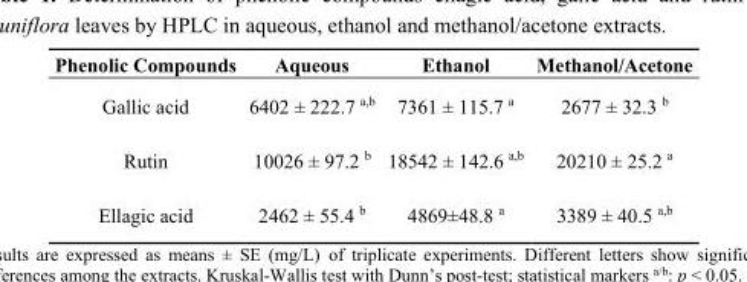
<table><thead><tr><td>Phenolic Compounds</td><td>Aqueous</td><td>Ethanol</td><td>Methanol/Acetone</td></tr></thead><tbody><tr><td>Gallic acid</td><td>6402 ± 222.7 <sup>a,b</sup></td><td>7361 ± 115.7 <sup>a</sup></td><td>2677 ± 32.3 <sup>b</sup></td></tr><tr><td>Rutin</td><td>10026 ± 97.2 <sup>b</sup></td><td>18542 ± 142.6 <sup>a,b</sup></td><td>20210 ± 25.2 <sup>a</sup></td></tr><tr><td>Ellagic acid</td><td>2462 ± 55.4 <sup>b</sup></td><td>4869±48.8 <sup>a</sup></td><td>3389 ± 40.5 <sup>a,b</sup></td></tr></tbody></table>